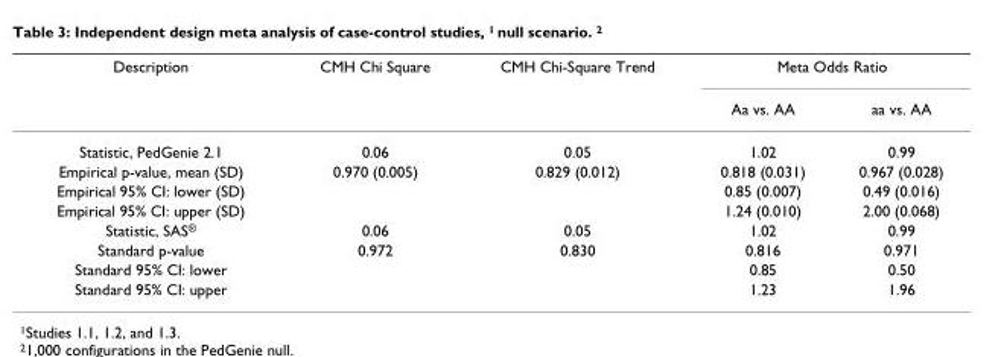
<table><thead><tr><td rowspan="2">Description</td><td rowspan="2">CMH Chi Square</td><td rowspan="2">CMH Chi-Square Trend</td><td colspan="2">Meta Odds Ratio</td></tr><tr><td>Aa vs. AA</td><td>aa vs. AA</td></tr></thead><tbody><tr><td>Statistic, PedGenie 2.1</td><td>0.06</td><td>0.05</td><td>1.02</td><td>0.99</td></tr><tr><td>Empirical p-value, mean (SD)</td><td>0.970 (0.005)</td><td>0.829 (0.012)</td><td>0.818 (0.031)</td><td>0.967 (0.028)</td></tr><tr><td>Empirical 95% CI: lower (SD)</td><td></td><td></td><td>0.85 (0.007)</td><td>0.49 (0.016)</td></tr><tr><td>Empirical 95% CI: upper (SD)</td><td></td><td></td><td>1.24 (0.010)</td><td>2.00 (0.068)</td></tr><tr><td>Statistic, SAS<sup>®</sup></td><td>0.06</td><td>0.05</td><td>1.02</td><td>0.99</td></tr><tr><td>Standard p-value</td><td>0.972</td><td>0.830</td><td>0.816</td><td>0.971</td></tr><tr><td>Standard 95% CI: lower</td><td></td><td></td><td>0.85</td><td>0.50</td></tr><tr><td>Standard 95% CI: upper</td><td></td><td></td><td>1.23</td><td>1.96</td></tr></tbody></table>